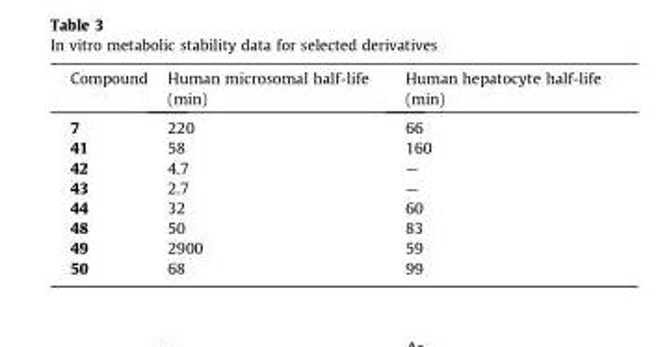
<table><thead><tr><td>Compound</td><td>Human microsomal half-life (min)</td><td>Human hepatocyte half-life (min)</td></tr></thead><tbody><tr><td>7</td><td>220</td><td>66</td></tr><tr><td>41</td><td>58</td><td>160</td></tr><tr><td>42</td><td>4.7</td><td>—</td></tr><tr><td>43</td><td>2.7</td><td>—</td></tr><tr><td>44</td><td>32</td><td>60</td></tr><tr><td>48</td><td>50</td><td>83</td></tr><tr><td>49</td><td>2900</td><td>59</td></tr><tr><td>50</td><td>68</td><td>99</td></tr></tbody></table>